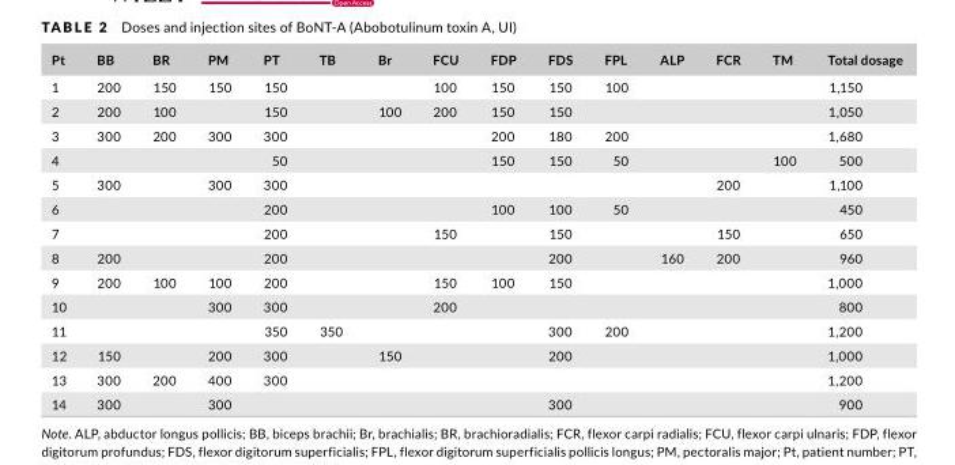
<table><thead><tr><td>Pt</td><td>BB</td><td>BR</td><td>PM</td><td>PT</td><td>TB</td><td>Br</td><td>FCU</td><td>FDP</td><td>FDS</td><td>FPL</td><td>ALP</td><td>FCR</td><td>TM</td><td>Total dosage</td></tr></thead><tbody><tr><td>1</td><td>200</td><td>150</td><td>150</td><td>150</td><td></td><td></td><td>100</td><td>150</td><td>150</td><td>100</td><td></td><td></td><td></td><td>1,150</td></tr><tr><td>2</td><td>200</td><td>100</td><td></td><td>150</td><td></td><td>100</td><td>200</td><td>150</td><td>150</td><td></td><td></td><td></td><td></td><td>1,050</td></tr><tr><td>3</td><td>300</td><td>200</td><td>300</td><td>300</td><td></td><td></td><td></td><td>200</td><td>180</td><td>200</td><td></td><td></td><td></td><td>1,680</td></tr><tr><td>4</td><td></td><td></td><td></td><td>50</td><td></td><td></td><td></td><td>150</td><td>150</td><td>50</td><td></td><td></td><td>100</td><td>500</td></tr><tr><td>5</td><td>300</td><td></td><td>300</td><td>300</td><td></td><td></td><td></td><td></td><td></td><td></td><td></td><td>200</td><td></td><td>1,100</td></tr><tr><td>6</td><td></td><td></td><td></td><td>200</td><td></td><td></td><td></td><td>100</td><td>100</td><td>50</td><td></td><td></td><td></td><td>450</td></tr><tr><td>7</td><td></td><td></td><td></td><td>200</td><td></td><td></td><td>150</td><td></td><td>150</td><td></td><td></td><td>150</td><td></td><td>650</td></tr><tr><td>8</td><td>200</td><td></td><td></td><td>200</td><td></td><td></td><td></td><td></td><td>200</td><td></td><td>160</td><td>200</td><td></td><td>960</td></tr><tr><td>9</td><td>200</td><td>100</td><td>100</td><td>200</td><td></td><td></td><td>150</td><td>100</td><td>150</td><td></td><td></td><td></td><td></td><td>1,000</td></tr><tr><td>10</td><td></td><td></td><td>300</td><td>300</td><td></td><td></td><td>200</td><td></td><td></td><td></td><td></td><td></td><td></td><td>800</td></tr><tr><td>11</td><td></td><td></td><td></td><td>350</td><td>350</td><td></td><td></td><td></td><td>300</td><td>200</td><td></td><td></td><td></td><td>1,200</td></tr><tr><td>12</td><td>150</td><td></td><td>200</td><td>300</td><td></td><td>150</td><td></td><td></td><td>200</td><td></td><td></td><td></td><td></td><td>1,000</td></tr><tr><td>13</td><td>300</td><td>200</td><td>400</td><td>300</td><td></td><td></td><td></td><td></td><td></td><td></td><td></td><td></td><td></td><td>1,200</td></tr><tr><td>14</td><td>300</td><td></td><td>300</td><td></td><td></td><td></td><td></td><td></td><td>300</td><td></td><td></td><td></td><td></td><td>900</td></tr></tbody></table>